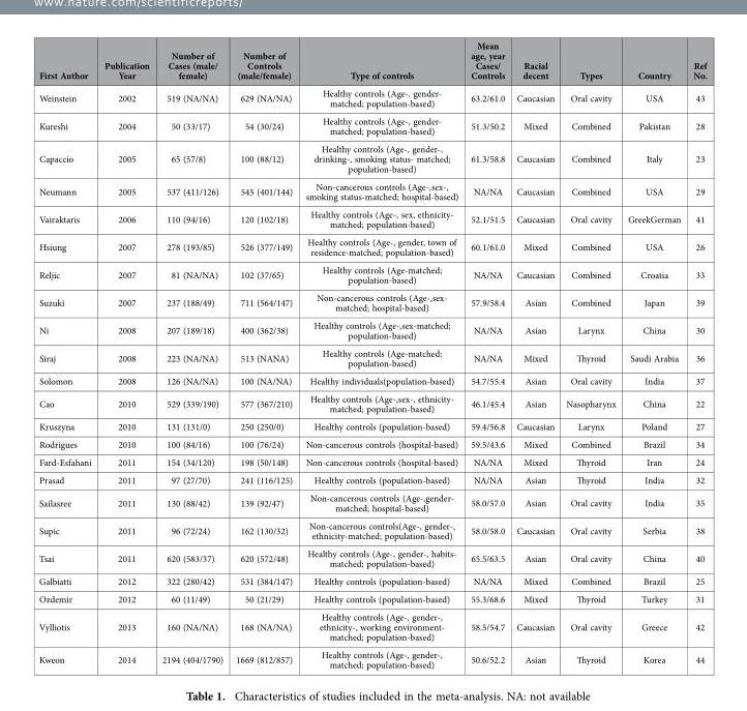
<table><thead><tr><td>First Author</td><td>Publication Year</td><td>Number of Cases (male/ female)</td><td>Number of Controls (male/female)</td><td>Type of controls</td><td>Mean age, year Cases/ Controls</td><td>Racial decent</td><td>Types</td><td>Country</td><td>Ref No.</td></tr></thead><tbody><tr><td>Weinstein</td><td>2002</td><td>519 (NA/NA)</td><td>629 (NA/NA)</td><td>Healthy controls (Age-, gender- matched; population-based)</td><td>63.2/61.0</td><td>Caucasian</td><td>Oral cavity</td><td>USA</td><td>43</td></tr><tr><td>Kureshi</td><td>2004</td><td>50 (33/17)</td><td>54 (30/24)</td><td>Healthy controls (Age-, gender- matched; population-based)</td><td>51.3/50.2</td><td>Mixed</td><td>Combined</td><td>Pakistan</td><td>28</td></tr><tr><td>Capaccio</td><td>2005</td><td>65 (57/8)</td><td>100 (88/12)</td><td>Healthy controls (Age-, gender-, drinking-, smoking status- matched; population-based)</td><td>61.3/58.8</td><td>Caucasian</td><td>Combined</td><td>Italy</td><td>23</td></tr><tr><td>Neumann</td><td>2005</td><td>537 (411/126)</td><td>545 (401/144)</td><td>Non-cancerous controls (Age-,sex-, smoking status-matched; hospital-based)</td><td>NA/NA</td><td>Caucasian</td><td>Combined</td><td>USA</td><td>29</td></tr><tr><td>Vairaktaris</td><td>2006</td><td>110 (94/16)</td><td>120 (102/18)</td><td>Healthy controls (Age-, sex, ethnicity- matched; population-based)</td><td>52.1/51.5</td><td>Caucasian</td><td>Oral cavity</td><td>GreekGerman</td><td>41</td></tr><tr><td>Hsiung</td><td>2007</td><td>278 (193/85)</td><td>526 (377/149)</td><td>Healthy controls (Age-, gender, town of residence-matched; population-based)</td><td>60.1/61.0</td><td>Mixed</td><td>Combined</td><td>USA</td><td>26</td></tr><tr><td>Reljic</td><td>2007</td><td>81 (NA/NA)</td><td>102 (37/65)</td><td>Healthy controls (Age-matched; population-based)</td><td>NA/NA</td><td>Caucasian</td><td>Combined</td><td>Croatia</td><td>33</td></tr><tr><td>Suzuki</td><td>2007</td><td>237 (188/49)</td><td>711 (564/147)</td><td>Non-cancerous controls (Age-,sex- matched; hospital-based)</td><td>57.9/58.4</td><td>Asian</td><td>Combined</td><td>Japan</td><td>39</td></tr><tr><td>Ni</td><td>2008</td><td>207 (189/18)</td><td>400 (362/38)</td><td>Healthy controls (Age-,sex-matched; population-based)</td><td>NA/NA</td><td>Asian</td><td>Larynx</td><td>China</td><td>30</td></tr><tr><td>Siraj</td><td>2008</td><td>223 (NA/NA)</td><td>513 (NANA)</td><td>Healthy controls (Age-matched; population-based)</td><td>NA/NA</td><td>Mixed</td><td>Thyroid</td><td>Saudi Arabia</td><td>36</td></tr><tr><td>Solomon</td><td>2008</td><td>126 (NA/NA)</td><td>100 (NA/NA)</td><td>Healthy individuals(population-based)</td><td>54.7/55.4</td><td>Asian</td><td>Oral cavity</td><td>India</td><td>37</td></tr><tr><td>Cao</td><td>2010</td><td>529 (339/190)</td><td>577 (367/210)</td><td>Healthy controls (Age-,sex-, ethnicity- matched; population-based)</td><td>46.1/45.4</td><td>Asian</td><td>Nasopharynx</td><td>China</td><td>22</td></tr><tr><td>Kruszyna</td><td>2010</td><td>131 (131/0)</td><td>250 (250/0)</td><td>Healthy controls (population-based)</td><td>59.4/56.8</td><td>Caucasian</td><td>Larynx</td><td>Poland</td><td>27</td></tr><tr><td>Rodrigues</td><td>2010</td><td>100 (84/16)</td><td>100 (76/24)</td><td>Non-cancerous controls (hospital-based)</td><td>59.5/43.6</td><td>Mixed</td><td>Combined</td><td>Brazil</td><td>34</td></tr><tr><td>Fard-Esfahani</td><td>2011</td><td>154 (34/120)</td><td>198 (50/148)</td><td>Non-cancerous controls (hospital-based)</td><td>NA/NA</td><td>Mixed</td><td>Thyroid</td><td>Iran</td><td>24</td></tr><tr><td>Prasad</td><td>2011</td><td>97 (27/70)</td><td>241 (116/125)</td><td>Healthy controls (population-based)</td><td>NA/NA</td><td>Asian</td><td>Thyroid</td><td>India</td><td>32</td></tr><tr><td>Sailasree</td><td>2011</td><td>130 (88/42)</td><td>139 (92/47)</td><td>Non-cancerous controls (Age-,gender- matched; hospital-based)</td><td>58.0/57.0</td><td>Asian</td><td>Oral cavity</td><td>India</td><td>35</td></tr><tr><td>Supic</td><td>2011</td><td>96 (72/24)</td><td>162 (130/32)</td><td>Non-cancerous controls(Age-, gender-, ethnicity-matched; population-based)</td><td>58.0/58.0</td><td>Caucasian</td><td>Oral cavity</td><td>Serbia</td><td>38</td></tr><tr><td>Tsai</td><td>2011</td><td>620 (583/37)</td><td>620 (572/48)</td><td>Healthy controls (Age-, gender-, habits- matched; population-based)</td><td>65.5/63.5</td><td>Asian</td><td>Oral cavity</td><td>China</td><td>40</td></tr><tr><td>Galbiatti</td><td>2012</td><td>322 (280/42)</td><td>531 (384/147)</td><td>Healthy controls (population-based)</td><td>NA/NA</td><td>Mixed</td><td>Combined</td><td>Brazil</td><td>25</td></tr><tr><td>Ozdemir</td><td>2012</td><td>60 (11/49)</td><td>50 (21/29)</td><td>Healthy controls (population-based)</td><td>55.3/68.6</td><td>Mixed</td><td>Thyroid</td><td>Turkey</td><td>31</td></tr><tr><td>Vylliotis</td><td>2013</td><td>160 (NA/NA)</td><td>168 (NA/NA)</td><td>Healthy controls (Age-, gender-, ethnicity-, working environment- matched; population-based)</td><td>58.5/54.7</td><td>Caucasian</td><td>Oral cavity</td><td>Greece</td><td>42</td></tr><tr><td>Kweon</td><td>2014</td><td>2194 (404/1790)</td><td>1669 (812/857)</td><td>Healthy controls (Age-, gender-, matched; population-based)</td><td>50.6/52.2</td><td>Asian</td><td>Thyroid</td><td>Korea</td><td>44</td></tr></tbody></table>